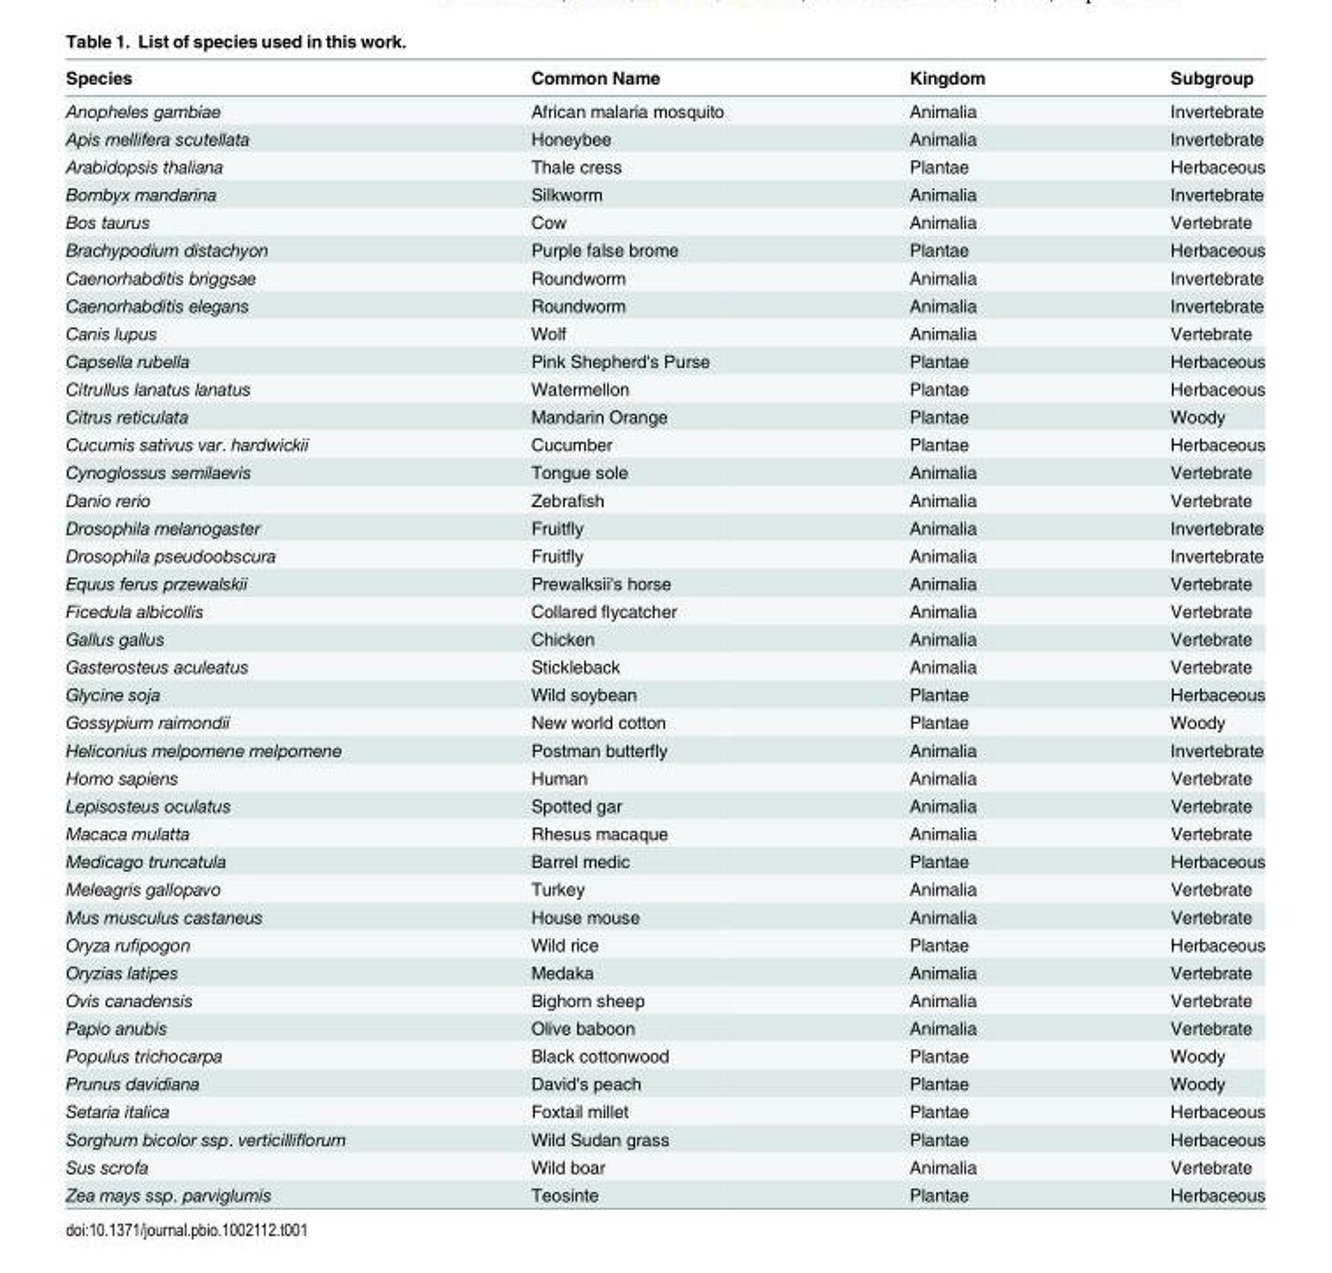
<table><thead><tr><td>Species</td><td>Common Name</td><td>Kingdom</td><td>Subgroup</td></tr></thead><tbody><tr><td>Anopheles gambiae</td><td>African malaria mosquito</td><td>Animalia</td><td>Invertebrate</td></tr><tr><td>Apis mellifera scutellata</td><td>Honeybee</td><td>Animalia</td><td>Invertebrate</td></tr><tr><td>Arabidopsis thaliana</td><td>Thale cress</td><td>Plantae</td><td>Herbaceous</td></tr><tr><td>Bombyx mandarina</td><td>Silkworm</td><td>Animalia</td><td>Invertebrate</td></tr><tr><td>Bos taurus</td><td>Cow</td><td>Animalia</td><td>Vertebrate</td></tr><tr><td>Brachypodium distachyon</td><td>Purple false brome</td><td>Plantae</td><td>Herbaceous</td></tr><tr><td>Caenorhabditis briggsae</td><td>Roundworm</td><td>Animalia</td><td>Invertebrate</td></tr><tr><td>Caenorhabditis elegans</td><td>Roundworm</td><td>Animalia</td><td>Invertebrate</td></tr><tr><td>Canis lupus</td><td>Wolf</td><td>Animalia</td><td>Vertebrate</td></tr><tr><td>Capsella rubella</td><td>Pink Shepherd&#x27;s Purse</td><td>Plantae</td><td>Herbaceous</td></tr><tr><td>Citrullus lanatus lanatus</td><td>Watermellon</td><td>Plantae</td><td>Herbaceous</td></tr><tr><td>Citrus reticulata</td><td>Mandarin Orange</td><td>Plantae</td><td>Woody</td></tr><tr><td>Cucumis sativus var. hardwickii</td><td>Cucumber</td><td>Plantae</td><td>Herbaceous</td></tr><tr><td>Cynoglossus semilaevis</td><td>Tongue sole</td><td>Animalia</td><td>Vertebrate</td></tr><tr><td>Danio rerio</td><td>Zebrafish</td><td>Animalia</td><td>Vertebrate</td></tr><tr><td>Drosophila melanogaster</td><td>Fruitfly</td><td>Animalia</td><td>Invertebrate</td></tr><tr><td>Drosophila pseudoobscura</td><td>Fruitfly</td><td>Animalia</td><td>Invertebrate</td></tr><tr><td>Equus ferus przewalskii</td><td>Prewalksii&#x27;s horse</td><td>Animalia</td><td>Vertebrate</td></tr><tr><td>Ficedula albicollis</td><td>Collared flycatcher</td><td>Animalia</td><td>Vertebrate</td></tr><tr><td>Gallus gallus</td><td>Chicken</td><td>Animalia</td><td>Vertebrate</td></tr><tr><td>Gasterosteus aculeatus</td><td>Stickleback</td><td>Animalia</td><td>Vertebrate</td></tr><tr><td>Glycine soja</td><td>Wild soybean</td><td>Plantae</td><td>Herbaceous</td></tr><tr><td>Gossypium raimondii</td><td>New world cotton</td><td>Plantae</td><td>Woody</td></tr><tr><td>Heliconius melpomene melpomene</td><td>Postman butterfly</td><td>Animalia</td><td>Invertebrate</td></tr><tr><td>Homo sapiens</td><td>Human</td><td>Animalia</td><td>Vertebrate</td></tr><tr><td>Lepisosteus oculatus</td><td>Spotted gar</td><td>Animalia</td><td>Vertebrate</td></tr><tr><td>Macaca mulatta</td><td>Rhesus macaque</td><td>Animalia</td><td>Vertebrate</td></tr><tr><td>Medicago truncatula</td><td>Barrel medic</td><td>Plantae</td><td>Herbaceous</td></tr><tr><td>Meleagris gallopavo</td><td>Turkey</td><td>Animalia</td><td>Vertebrate</td></tr><tr><td>Mus musculus castaneus</td><td>House mouse</td><td>Animalia</td><td>Vertebrate</td></tr><tr><td>Oryza rufipogon</td><td>Wild rice</td><td>Plantae</td><td>Herbaceous</td></tr><tr><td>Oryzias latipes</td><td>Medaka</td><td>Animalia</td><td>Vertebrate</td></tr><tr><td>Ovis canadensis</td><td>Bighorn sheep</td><td>Animalia</td><td>Vertebrate</td></tr><tr><td>Papio anubis</td><td>Olive baboon</td><td>Animalia</td><td>Vertebrate</td></tr><tr><td>Populus trichocarpa</td><td>Black cottonwood</td><td>Plantae</td><td>Woody</td></tr><tr><td>Prunus davidiana</td><td>David&#x27;s peach</td><td>Plantae</td><td>Woody</td></tr><tr><td>Setaria italica</td><td>Foxtail millet</td><td>Plantae</td><td>Herbaceous</td></tr><tr><td>Sorghum bicolor ssp. verticilliflorum</td><td>Wild Sudan grass</td><td>Plantae</td><td>Herbaceous</td></tr><tr><td>Sus scrofa</td><td>Wild boar</td><td>Animalia</td><td>Vertebrate</td></tr><tr><td>Zea mays ssp. parviglumis</td><td>Teosinte</td><td>Plantae</td><td>Herbaceous</td></tr></tbody></table>